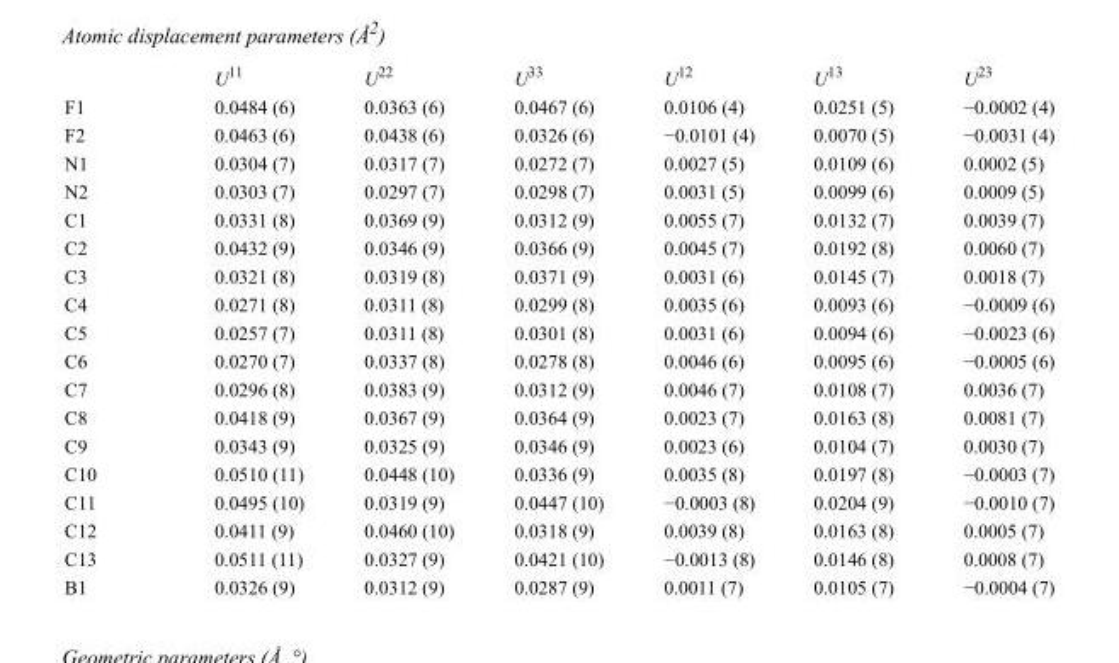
<table><thead><tr><td></td><td>U<sup>11</sup></td><td>U<sup>22</sup></td><td>U<sup>33</sup></td><td>U<sup>12</sup></td><td>U<sup>13</sup></td><td>U<sup>23</sup></td></tr></thead><tbody><tr><td>F1</td><td>0.0484 (6)</td><td>0.0363 (6)</td><td>0.0467 (6)</td><td>0.0106 (4)</td><td>0.0251 (5)</td><td>−0.0002 (4)</td></tr><tr><td>F2</td><td>0.0463 (6)</td><td>0.0438 (6)</td><td>0.0326 (6)</td><td>−0.0101 (4)</td><td>0.0070 (5)</td><td>−0.0031 (4)</td></tr><tr><td>N1</td><td>0.0304 (7)</td><td>0.0317 (7)</td><td>0.0272 (7)</td><td>0.0027 (5)</td><td>0.0109 (6)</td><td>0.0002 (5)</td></tr><tr><td>N2</td><td>0.0303 (7)</td><td>0.0297 (7)</td><td>0.0298 (7)</td><td>0.0031 (5)</td><td>0.0099 (6)</td><td>0.0009 (5)</td></tr><tr><td>C1</td><td>0.0331 (8)</td><td>0.0369 (9)</td><td>0.0312 (9)</td><td>0.0055 (7)</td><td>0.0132 (7)</td><td>0.0039 (7)</td></tr><tr><td>C2</td><td>0.0432 (9)</td><td>0.0346 (9)</td><td>0.0366 (9)</td><td>0.0045 (7)</td><td>0.0192 (8)</td><td>0.0060 (7)</td></tr><tr><td>C3</td><td>0.0321 (8)</td><td>0.0319 (8)</td><td>0.0371 (9)</td><td>0.0031 (6)</td><td>0.0145 (7)</td><td>0.0018 (7)</td></tr><tr><td>C4</td><td>0.0271 (8)</td><td>0.0311 (8)</td><td>0.0299 (8)</td><td>0.0035 (6)</td><td>0.0093 (6)</td><td>−0.0009 (6)</td></tr><tr><td>C5</td><td>0.0257 (7)</td><td>0.0311 (8)</td><td>0.0301 (8)</td><td>0.0031 (6)</td><td>0.0094 (6)</td><td>−0.0023 (6)</td></tr><tr><td>C6</td><td>0.0270 (7)</td><td>0.0337 (8)</td><td>0.0278 (8)</td><td>0.0046 (6)</td><td>0.0095 (6)</td><td>−0.0005 (6)</td></tr><tr><td>C7</td><td>0.0296 (8)</td><td>0.0383 (9)</td><td>0.0312 (9)</td><td>0.0046 (7)</td><td>0.0108 (7)</td><td>0.0036 (7)</td></tr><tr><td>C8</td><td>0.0418 (9)</td><td>0.0367 (9)</td><td>0.0364 (9)</td><td>0.0023 (7)</td><td>0.0163 (8)</td><td>0.0081 (7)</td></tr><tr><td>C9</td><td>0.0343 (9)</td><td>0.0325 (9)</td><td>0.0346 (9)</td><td>0.0023 (6)</td><td>0.0104 (7)</td><td>0.0030 (7)</td></tr><tr><td>C10</td><td>0.0510 (11)</td><td>0.0448 (10)</td><td>0.0336 (9)</td><td>0.0035 (8)</td><td>0.0197 (8)</td><td>−0.0003 (7)</td></tr><tr><td>C11</td><td>0.0495 (10)</td><td>0.0319 (9)</td><td>0.0447 (10)</td><td>−0.0003 (8)</td><td>0.0204 (9)</td><td>−0.0010 (7)</td></tr><tr><td>C12</td><td>0.0411 (9)</td><td>0.0460 (10)</td><td>0.0318 (9)</td><td>0.0039 (8)</td><td>0.0163 (8)</td><td>0.0005 (7)</td></tr><tr><td>C13</td><td>0.0511 (11)</td><td>0.0327 (9)</td><td>0.0421 (10)</td><td>−0.0013 (8)</td><td>0.0146 (8)</td><td>0.0008 (7)</td></tr><tr><td>B1</td><td>0.0326 (9)</td><td>0.0312 (9)</td><td>0.0287 (9)</td><td>0.0011 (7)</td><td>0.0105 (7)</td><td>−0.0004 (7)</td></tr></tbody></table>